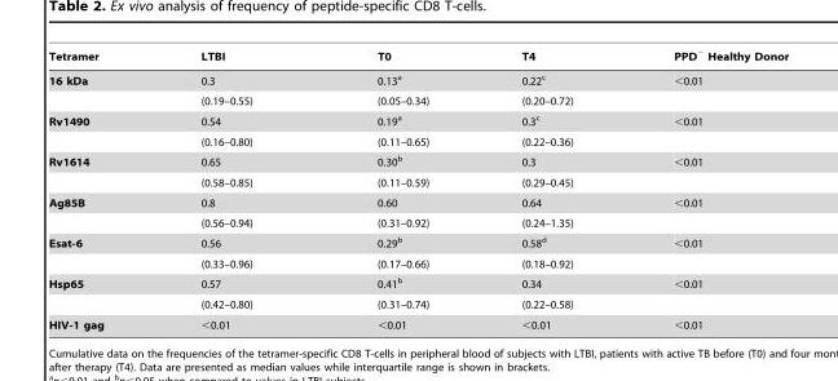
<table><thead><tr><td>Tetramer</td><td>LTBI</td><td>T0</td><td>T4</td><td>PPD− Healthy Donor</td></tr></thead><tbody><tr><td rowspan="2">16 kDa</td><td>0.3</td><td>0.13a</td><td>0.22c</td><td>&lt;0.01</td></tr><tr><td>(0.19–0.55)</td><td>(0.05–0.34)</td><td>(0.20–0.72)</td><td></td></tr><tr><td rowspan="2">Rv1490</td><td>0.54</td><td>0.19a</td><td>0.3c</td><td>&lt;0.01</td></tr><tr><td>(0.16–0.80)</td><td>(0.11–0.65)</td><td>(0.22–0.36)</td><td></td></tr><tr><td rowspan="2">Rv1614</td><td>0.65</td><td>0.30b</td><td>0.3</td><td>&lt;0.01</td></tr><tr><td>(0.58–0.85)</td><td>(0.11–0.59)</td><td>(0.29–0.45)</td><td></td></tr><tr><td rowspan="2">Ag85B</td><td>0.8</td><td>0.60</td><td>0.64</td><td>&lt;0.01</td></tr><tr><td>(0.56–0.94)</td><td>(0.31–0.92)</td><td>(0.24–1.35)</td><td></td></tr><tr><td rowspan="2">Esat-6</td><td>0.56</td><td>0.29b</td><td>0.58d</td><td>&lt;0.01</td></tr><tr><td>(0.33–0.96)</td><td>(0.17–0.66)</td><td>(0.18–0.92)</td><td></td></tr><tr><td rowspan="2">Hsp65</td><td>0.57</td><td>0.41b</td><td>0.34</td><td>&lt;0.01</td></tr><tr><td>(0.42–0.80)</td><td>(0.31–0.74)</td><td>(0.22–0.58)</td><td></td></tr><tr><td>HIV-1 gag</td><td>&lt;0.01</td><td>&lt;0.01</td><td>&lt;0.01</td><td>&lt;0.01</td></tr></tbody></table>